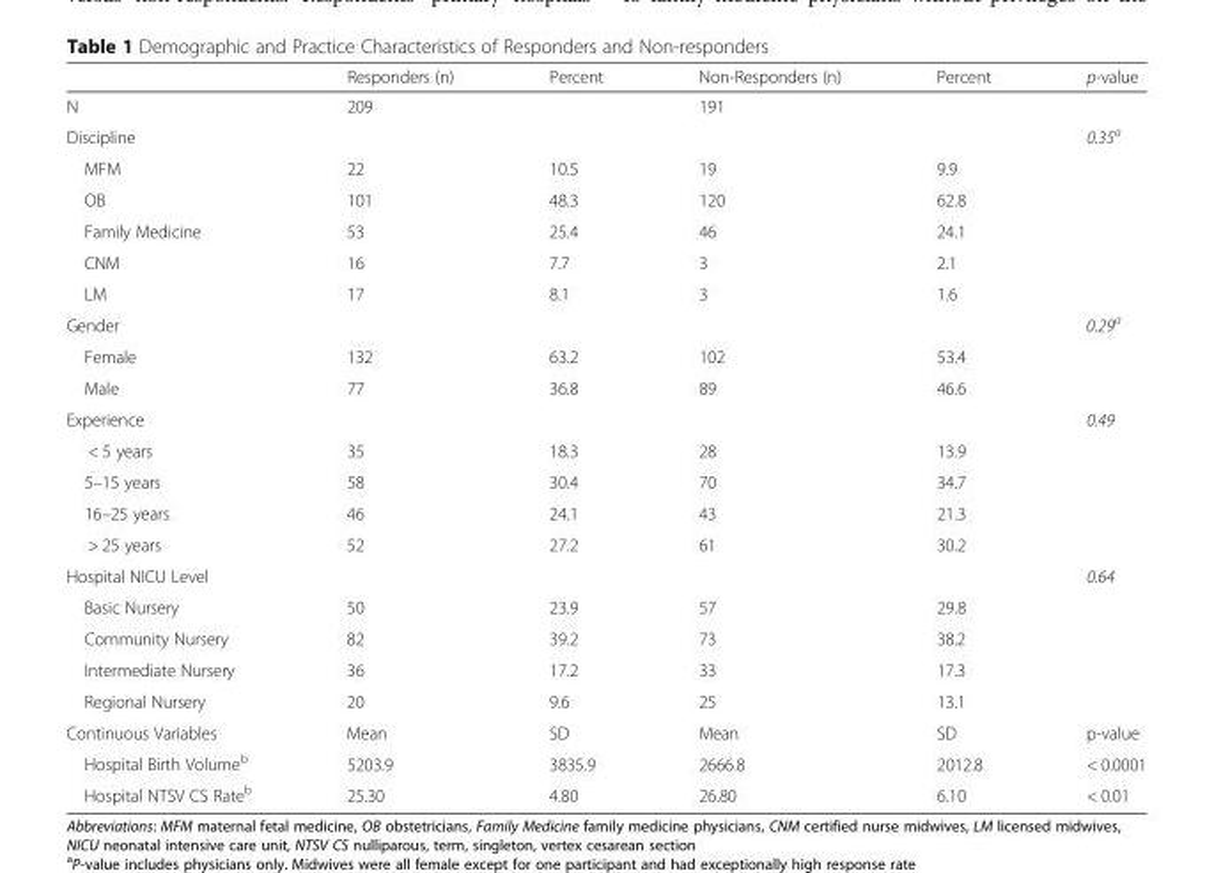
<table><thead><tr><td></td><td>Responders (n)</td><td>Percent</td><td>Non-Responders (n)</td><td>Percent</td><td>p-value</td></tr></thead><tbody><tr><td>N</td><td>209</td><td></td><td>191</td><td></td><td></td></tr><tr><td>Discipline</td><td></td><td></td><td></td><td></td><td>0.35<sup>a</sup></td></tr><tr><td>MFM</td><td>22</td><td>10.5</td><td>19</td><td>9.9</td><td></td></tr><tr><td>OB</td><td>101</td><td>48.3</td><td>120</td><td>62.8</td><td></td></tr><tr><td>Family Medicine</td><td>53</td><td>25.4</td><td>46</td><td>24.1</td><td></td></tr><tr><td>CNM</td><td>16</td><td>7.7</td><td>3</td><td>2.1</td><td></td></tr><tr><td>LM</td><td>17</td><td>8.1</td><td>3</td><td>1.6</td><td></td></tr><tr><td>Gender</td><td></td><td></td><td></td><td></td><td>0.29<sup>a</sup></td></tr><tr><td>Female</td><td>132</td><td>63.2</td><td>102</td><td>53.4</td><td></td></tr><tr><td>Male</td><td>77</td><td>36.8</td><td>89</td><td>46.6</td><td></td></tr><tr><td>Experience</td><td></td><td></td><td></td><td></td><td>0.49</td></tr><tr><td>&lt; 5 years</td><td>35</td><td>18.3</td><td>28</td><td>13.9</td><td></td></tr><tr><td>5–15 years</td><td>58</td><td>30.4</td><td>70</td><td>34.7</td><td></td></tr><tr><td>16–25 years</td><td>46</td><td>24.1</td><td>43</td><td>21.3</td><td></td></tr><tr><td>&gt; 25 years</td><td>52</td><td>27.2</td><td>61</td><td>30.2</td><td></td></tr><tr><td>Hospital NICU Level</td><td></td><td></td><td></td><td></td><td>0.64</td></tr><tr><td>Basic Nursery</td><td>50</td><td>23.9</td><td>57</td><td>29.8</td><td></td></tr><tr><td>Community Nursery</td><td>82</td><td>39.2</td><td>73</td><td>38.2</td><td></td></tr><tr><td>Intermediate Nursery</td><td>36</td><td>17.2</td><td>33</td><td>17.3</td><td></td></tr><tr><td>Regional Nursery</td><td>20</td><td>9.6</td><td>25</td><td>13.1</td><td></td></tr><tr><td>Continuous Variables</td><td>Mean</td><td>SD</td><td>Mean</td><td>SD</td><td>p-value</td></tr><tr><td>Hospital Birth Volume<sup>b</sup></td><td>5203.9</td><td>3835.9</td><td>2666.8</td><td>2012.8</td><td>&lt; 0.0001</td></tr><tr><td>Hospital NTSV CS Rate<sup>b</sup></td><td>25.30</td><td>4.80</td><td>26.80</td><td>6.10</td><td>&lt; 0.01</td></tr></tbody></table>